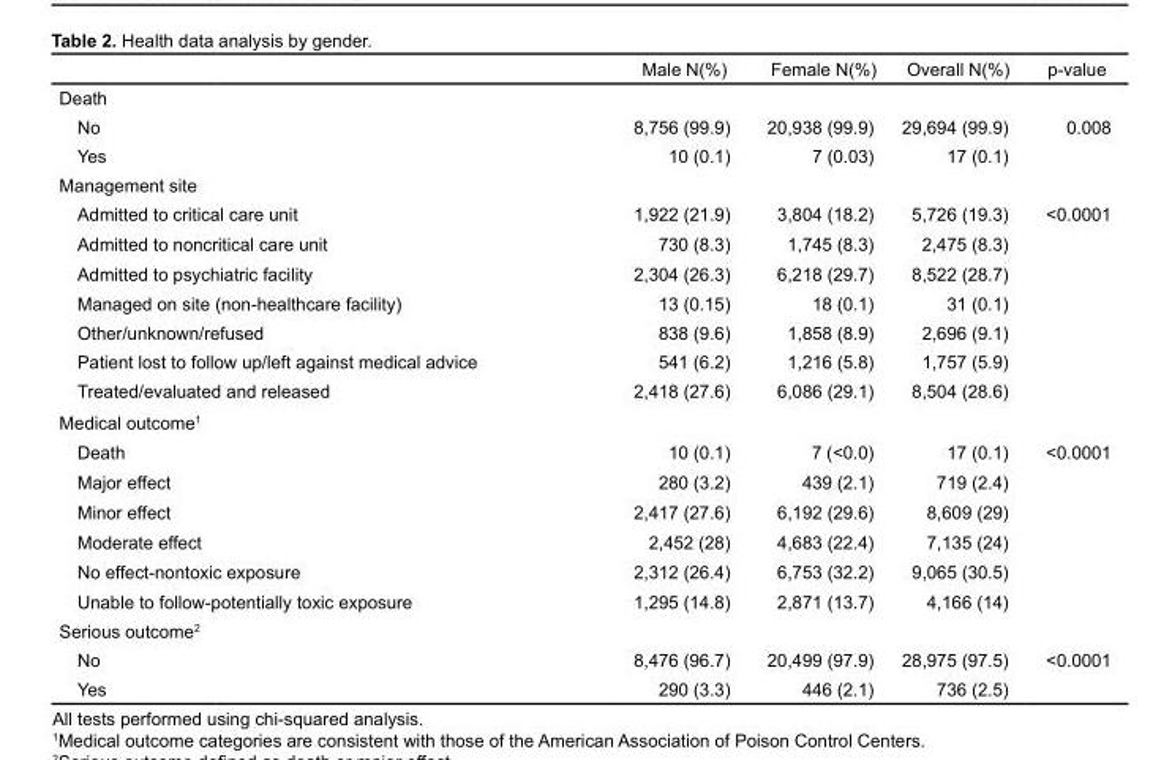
<table><thead><tr><td></td><td>Male N(%)</td><td>Female N(%)</td><td>Overall N(%)</td><td>p-value</td></tr></thead><tbody><tr><td colspan="5">Death</td></tr><tr><td>No</td><td>8,756 (99.9)</td><td>20,938 (99.9)</td><td>29,694 (99.9)</td><td>0.008</td></tr><tr><td>Yes</td><td>10 (0.1)</td><td>7 (0.03)</td><td>17 (0.1)</td><td></td></tr><tr><td colspan="5">Management site</td></tr><tr><td>Admitted to critical care unit</td><td>1,922 (21.9)</td><td>3,804 (18.2)</td><td>5,726 (19.3)</td><td>&lt;0.0001</td></tr><tr><td>Admitted to noncritical care unit</td><td>730 (8.3)</td><td>1,745 (8.3)</td><td>2,475 (8.3)</td><td></td></tr><tr><td>Admitted to psychiatric facility</td><td>2,304 (26.3)</td><td>6,218 (29.7)</td><td>8,522 (28.7)</td><td></td></tr><tr><td>Managed on site (non-healthcare facility)</td><td>13 (0.15)</td><td>18 (0.1)</td><td>31 (0.1)</td><td></td></tr><tr><td>Other/unknown/refused</td><td>838 (9.6)</td><td>1,858 (8.9)</td><td>2,696 (9.1)</td><td></td></tr><tr><td>Patient lost to follow up/left against medical advice</td><td>541 (6.2)</td><td>1,216 (5.8)</td><td>1,757 (5.9)</td><td></td></tr><tr><td>Treated/evaluated and released</td><td>2,418 (27.6)</td><td>6,086 (29.1)</td><td>8,504 (28.6)</td><td></td></tr><tr><td colspan="5">Medical outcome<sup>1</sup></td></tr><tr><td>Death</td><td>10 (0.1)</td><td>7 (&lt;0.0)</td><td>17 (0.1)</td><td>&lt;0.0001</td></tr><tr><td>Major effect</td><td>280 (3.2)</td><td>439 (2.1)</td><td>719 (2.4)</td><td></td></tr><tr><td>Minor effect</td><td>2,417 (27.6)</td><td>6,192 (29.6)</td><td>8,609 (29)</td><td></td></tr><tr><td>Moderate effect</td><td>2,452 (28)</td><td>4,683 (22.4)</td><td>7,135 (24)</td><td></td></tr><tr><td>No effect-nontoxic exposure</td><td>2,312 (26.4)</td><td>6,753 (32.2)</td><td>9,065 (30.5)</td><td></td></tr><tr><td>Unable to follow-potentially toxic exposure</td><td>1,295 (14.8)</td><td>2,871 (13.7)</td><td>4,166 (14)</td><td></td></tr><tr><td colspan="5">Serious outcome<sup>2</sup></td></tr><tr><td>No</td><td>8,476 (96.7)</td><td>20,499 (97.9)</td><td>28,975 (97.5)</td><td>&lt;0.0001</td></tr><tr><td>Yes</td><td>290 (3.3)</td><td>446 (2.1)</td><td>736 (2.5)</td><td></td></tr></tbody></table>